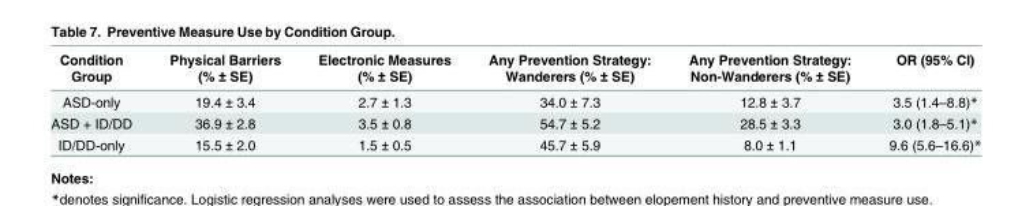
<table><thead><tr><td>Condition Group</td><td>Physical Barriers (% ± SE)</td><td>Electronic Measures (% ± SE)</td><td>Any Prevention Strategy: Wanderers (% ± SE)</td><td>Any Prevention Strategy: Non-Wanderers (% ± SE)</td><td>OR (95% CI)</td></tr></thead><tbody><tr><td>ASD-only</td><td>19.4 ± 3.4</td><td>2.7 ± 1.3</td><td>34.0 ± 7.3</td><td>12.8 ± 3.7</td><td>3.5 (1.4–8.8)*</td></tr><tr><td>ASD + ID/DD</td><td>36.9 ± 2.8</td><td>3.5 ± 0.8</td><td>54.7 ± 5.2</td><td>28.5 ± 3.3</td><td>3.0 (1.8–5.1)*</td></tr><tr><td>ID/DD-only</td><td>15.5 ± 2.0</td><td>1.5 ± 0.5</td><td>45.7 ± 5.9</td><td>8.0 ± 1.1</td><td>9.6 (5.6–16.6)*</td></tr></tbody></table>